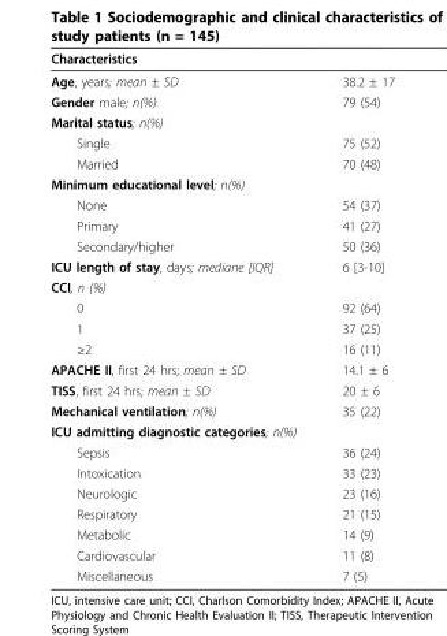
<table><thead><tr><td colspan="2">Characteristics</td></tr><tr><td>Age, years; mean ± SD</td><td>38.2 ± 17</td></tr></thead><tbody><tr><td>Gender male; n(%)</td><td>79 (54)</td></tr><tr><td colspan="2">Marital status; n(%)</td></tr><tr><td>Single</td><td>75 (52)</td></tr><tr><td>Married</td><td>70 (48)</td></tr><tr><td colspan="2">Minimum educational level; n(%)</td></tr><tr><td>None</td><td>54 (37)</td></tr><tr><td>Primary</td><td>41 (27)</td></tr><tr><td>Secondary/higher</td><td>50 (36)</td></tr><tr><td>ICU length of stay, days; mediane [IQR]</td><td>6 [3-10]</td></tr><tr><td colspan="2">CCI, n (%)</td></tr><tr><td>0</td><td>92 (64)</td></tr><tr><td>1</td><td>37 (25)</td></tr><tr><td>≥2</td><td>16 (11)</td></tr><tr><td>APACHE II, first 24 hrs; mean ± SD</td><td>14.1 ± 6</td></tr><tr><td>TISS, first 24 hrs; mean ± SD</td><td>20 ± 6</td></tr><tr><td>Mechanical ventilation; n(%)</td><td>35 (22)</td></tr><tr><td colspan="2">ICU admitting diagnostic categories; n(%)</td></tr><tr><td>Sepsis</td><td>36 (24)</td></tr><tr><td>Intoxication</td><td>33 (23)</td></tr><tr><td>Neurologic</td><td>23 (16)</td></tr><tr><td>Respiratory</td><td>21 (15)</td></tr><tr><td>Metabolic</td><td>14 (9)</td></tr><tr><td>Cardiovascular</td><td>11 (8)</td></tr><tr><td>Miscellaneous</td><td>7 (5)</td></tr></tbody></table>